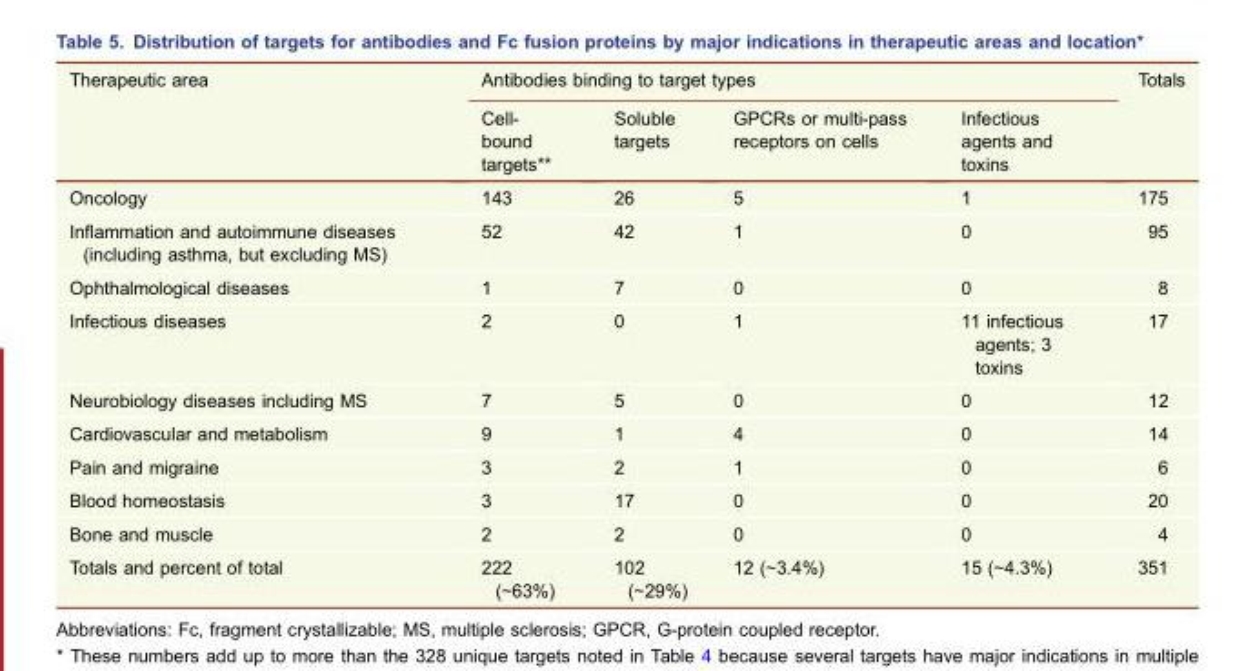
<table><thead><tr><td rowspan="2">Therapeutic area</td><td colspan="4">Antibodies binding to target types</td><td rowspan="2">Totals</td></tr><tr><td>Cell- bound targets**</td><td>Soluble targets</td><td>GPCRs or multi-pass receptors on cells</td><td>Infectious agents and toxins</td></tr></thead><tbody><tr><td>Oncology</td><td>143</td><td>26</td><td>5</td><td>1</td><td>175</td></tr><tr><td>Inflammation and autoimmune diseases (including asthma, but excluding MS)</td><td>52</td><td>42</td><td>1</td><td>0</td><td>95</td></tr><tr><td>Ophthalmological diseases</td><td>1</td><td>7</td><td>0</td><td>0</td><td>8</td></tr><tr><td>Infectious diseases</td><td>2</td><td>0</td><td>1</td><td>11 infectious agents; 3 toxins</td><td>17</td></tr><tr><td>Neurobiology diseases including MS</td><td>7</td><td>5</td><td>0</td><td>0</td><td>12</td></tr><tr><td>Cardiovascular and metabolism</td><td>9</td><td>1</td><td>4</td><td>0</td><td>14</td></tr><tr><td>Pain and migraine</td><td>3</td><td>2</td><td>1</td><td>0</td><td>6</td></tr><tr><td>Blood homeostasis</td><td>3</td><td>17</td><td>0</td><td>0</td><td>20</td></tr><tr><td>Bone and muscle</td><td>2</td><td>2</td><td>0</td><td>0</td><td>4</td></tr><tr><td>Totals and percent of total</td><td>222 (∼63%)</td><td>102 (∼29%)</td><td>12 (∼3.4%)</td><td>15 (∼4.3%)</td><td>351</td></tr></tbody></table>